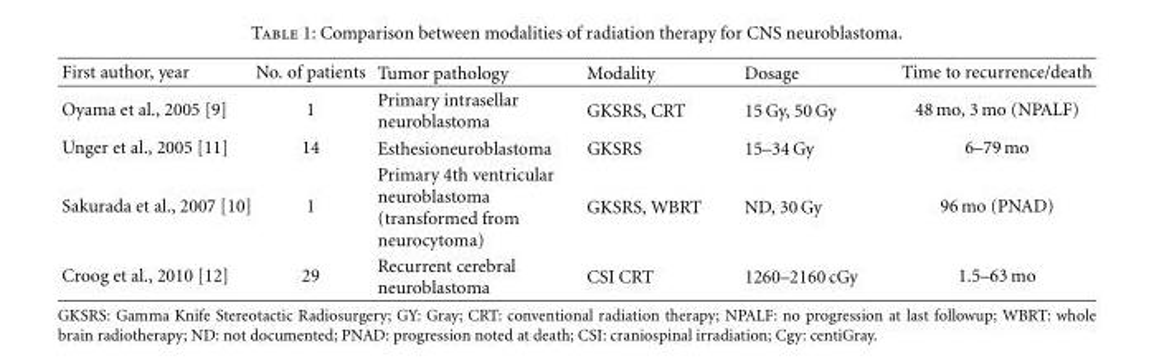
<table><thead><tr><td>First author, year</td><td>No. of patients</td><td>Tumor pathology</td><td>Modality</td><td>Dosage</td><td>Time to recurrence/death</td></tr></thead><tbody><tr><td>Oyama et al., 2005 [9]</td><td>1</td><td>Primary intrasellar neuroblastoma</td><td>GKSRS, CRT</td><td>15 Gy, 50 Gy</td><td>48 mo, 3 mo (NPALF)</td></tr><tr><td>Unger et al., 2005 [11]</td><td>14</td><td>Esthesioneuroblastoma</td><td>GKSRS</td><td>15–34 Gy</td><td>6–79 mo</td></tr><tr><td>Sakurada et al., 2007 [10]</td><td>1</td><td>Primary 4th ventricular neuroblastoma (transformed from neurocytoma)</td><td>GKSRS, WBRT</td><td>ND, 30 Gy</td><td>96 mo (PNAD)</td></tr><tr><td>Croog et al., 2010 [12]</td><td>29</td><td>Recurrent cerebral neuroblastoma</td><td>CSI CRT</td><td>1260–2160 cGy</td><td>1.5–63 mo</td></tr></tbody></table>